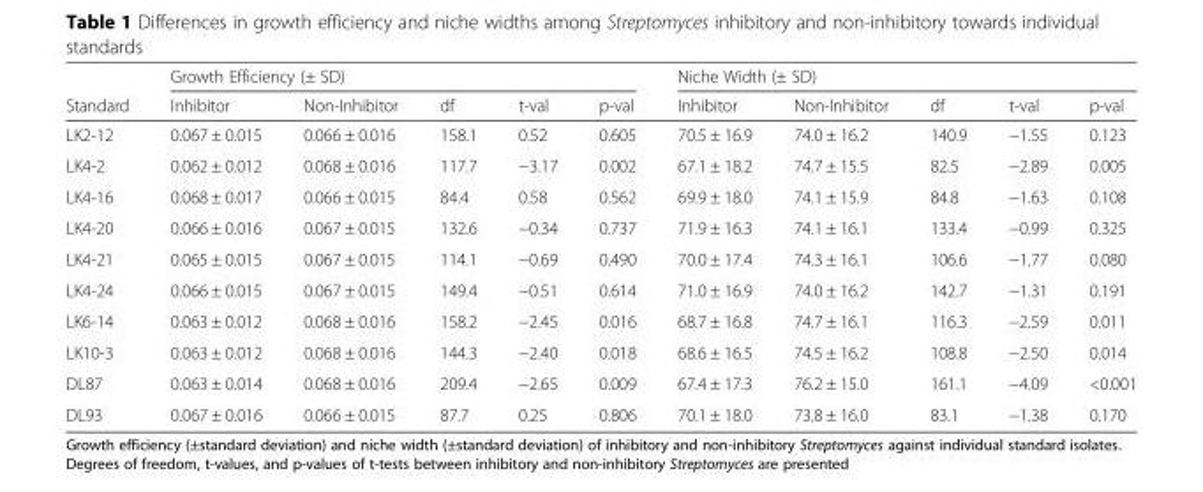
<table><thead><tr><td rowspan="2">Standard</td><td colspan="5">Growth Efficiency (± SD)</td><td colspan="5">Niche Width (± SD)</td></tr><tr><td>Inhibitor</td><td>Non-Inhibitor</td><td>df</td><td>t-val</td><td>p-val</td><td>Inhibitor</td><td>Non-Inhibitor</td><td>df</td><td>t-val</td><td>p-val</td></tr></thead><tbody><tr><td>LK2-12</td><td>0.067 ± 0.015</td><td>0.066 ± 0.016</td><td>158.1</td><td>0.52</td><td>0.605</td><td>70.5 ± 16.9</td><td>74.0 ± 16.2</td><td>140.9</td><td>−1.55</td><td>0.123</td></tr><tr><td>LK4-2</td><td>0.062 ± 0.012</td><td>0.068 ± 0.016</td><td>117.7</td><td>−3.17</td><td>0.002</td><td>67.1 ± 18.2</td><td>74.7 ± 15.5</td><td>82.5</td><td>−2.89</td><td>0.005</td></tr><tr><td>LK4-16</td><td>0.068 ± 0.017</td><td>0.066 ± 0.015</td><td>84.4</td><td>0.58</td><td>0.562</td><td>69.9 ± 18.0</td><td>74.1 ± 15.9</td><td>84.8</td><td>−1.63</td><td>0.108</td></tr><tr><td>LK4-20</td><td>0.066 ± 0.016</td><td>0.067 ± 0.015</td><td>132.6</td><td>−0.34</td><td>0.737</td><td>71.9 ± 16.3</td><td>74.1 ± 16.1</td><td>133.4</td><td>−0.99</td><td>0.325</td></tr><tr><td>LK4-21</td><td>0.065 ± 0.015</td><td>0.067 ± 0.015</td><td>114.1</td><td>−0.69</td><td>0.490</td><td>70.0 ± 17.4</td><td>74.3 ± 16.1</td><td>106.6</td><td>−1.77</td><td>0.080</td></tr><tr><td>LK4-24</td><td>0.066 ± 0.015</td><td>0.067 ± 0.015</td><td>149.4</td><td>−0.51</td><td>0.614</td><td>71.0 ± 16.9</td><td>74.0 ± 16.2</td><td>142.7</td><td>−1.31</td><td>0.191</td></tr><tr><td>LK6-14</td><td>0.063 ± 0.012</td><td>0.068 ± 0.016</td><td>158.2</td><td>−2.45</td><td>0.016</td><td>68.7 ± 16.8</td><td>74.7 ± 16.1</td><td>116.3</td><td>−2.59</td><td>0.011</td></tr><tr><td>LK10-3</td><td>0.063 ± 0.012</td><td>0.068 ± 0.016</td><td>144.3</td><td>−2.40</td><td>0.018</td><td>68.6 ± 16.5</td><td>74.5 ± 16.2</td><td>108.8</td><td>−2.50</td><td>0.014</td></tr><tr><td>DL87</td><td>0.063 ± 0.014</td><td>0.068 ± 0.016</td><td>209.4</td><td>−2.65</td><td>0.009</td><td>67.4 ± 17.3</td><td>76.2 ± 15.0</td><td>161.1</td><td>−4.09</td><td>&lt;0.001</td></tr><tr><td>DL93</td><td>0.067 ± 0.016</td><td>0.066 ± 0.015</td><td>87.7</td><td>0.25</td><td>0.806</td><td>70.1 ± 18.0</td><td>73.8 ± 16.0</td><td>83.1</td><td>−1.38</td><td>0.170</td></tr></tbody></table>